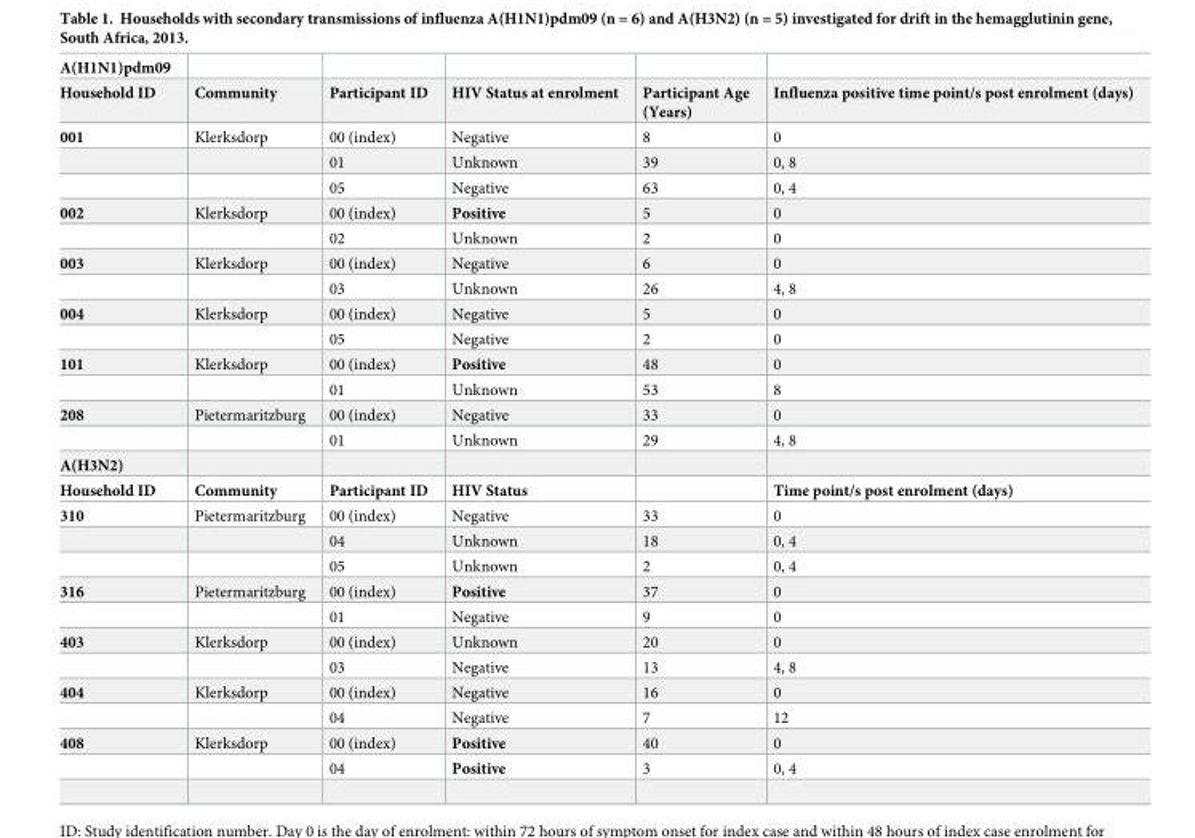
<table><tbody><tr><td colspan="6">A(H1N1)pdm09</td></tr><tr><td>Household ID</td><td>Community</td><td>Participant ID</td><td>HIV Status at enrolment</td><td>Participant Age (Years)</td><td>Influenza positive time point/s post enrolment (days)</td></tr><tr><td rowspan="3">001</td><td>Klerksdorp</td><td>00 (index)</td><td>Negative</td><td>8</td><td>0</td></tr><tr><td></td><td>01</td><td>Unknown</td><td>39</td><td>0, 8</td></tr><tr><td></td><td>05</td><td>Negative</td><td>63</td><td>0, 4</td></tr><tr><td rowspan="2">002</td><td>Klerksdorp</td><td>00 (index)</td><td>Positive</td><td>5</td><td>0</td></tr><tr><td></td><td>02</td><td>Unknown</td><td>2</td><td>0</td></tr><tr><td rowspan="2">003</td><td>Klerksdorp</td><td>00 (index)</td><td>Negative</td><td>6</td><td>0</td></tr><tr><td></td><td>03</td><td>Unknown</td><td>26</td><td>4, 8</td></tr><tr><td rowspan="2">004</td><td>Klerksdorp</td><td>00 (index)</td><td>Negative</td><td>5</td><td>0</td></tr><tr><td></td><td>05</td><td>Negative</td><td>2</td><td>0</td></tr><tr><td rowspan="2">101</td><td>Klerksdorp</td><td>00 (index)</td><td>Positive</td><td>48</td><td>0</td></tr><tr><td></td><td>01</td><td>Unknown</td><td>53</td><td>8</td></tr><tr><td rowspan="2">208</td><td>Pietermaritzburg</td><td>00 (index)</td><td>Negative</td><td>33</td><td>0</td></tr><tr><td></td><td>01</td><td>Unknown</td><td>29</td><td>4, 8</td></tr><tr><td colspan="6">A(H3N2)</td></tr><tr><td>Household ID</td><td>Community</td><td>Participant ID</td><td>HIV Status</td><td></td><td>Time point/s post enrolment (days)</td></tr><tr><td rowspan="3">310</td><td>Pietermaritzburg</td><td>00 (index)</td><td>Negative</td><td>33</td><td>0</td></tr><tr><td></td><td>04</td><td>Unknown</td><td>18</td><td>0, 4</td></tr><tr><td></td><td>05</td><td>Unknown</td><td>2</td><td>0, 4</td></tr><tr><td rowspan="2">316</td><td>Pietermaritzburg</td><td>00 (index)</td><td>Positive</td><td>37</td><td>0</td></tr><tr><td></td><td>01</td><td>Negative</td><td>9</td><td>0</td></tr><tr><td rowspan="2">403</td><td>Klerksdorp</td><td>00 (index)</td><td>Unknown</td><td>20</td><td>0</td></tr><tr><td></td><td>03</td><td>Negative</td><td>13</td><td>4, 8</td></tr><tr><td rowspan="2">404</td><td>Klerksdorp</td><td>00 (index)</td><td>Negative</td><td>16</td><td>0</td></tr><tr><td></td><td>04</td><td>Negative</td><td>7</td><td>12</td></tr><tr><td rowspan="2">408</td><td>Klerksdorp</td><td>00 (index)</td><td>Positive</td><td>40</td><td>0</td></tr><tr><td></td><td>04</td><td>Positive</td><td>3</td><td>0, 4</td></tr></tbody></table>